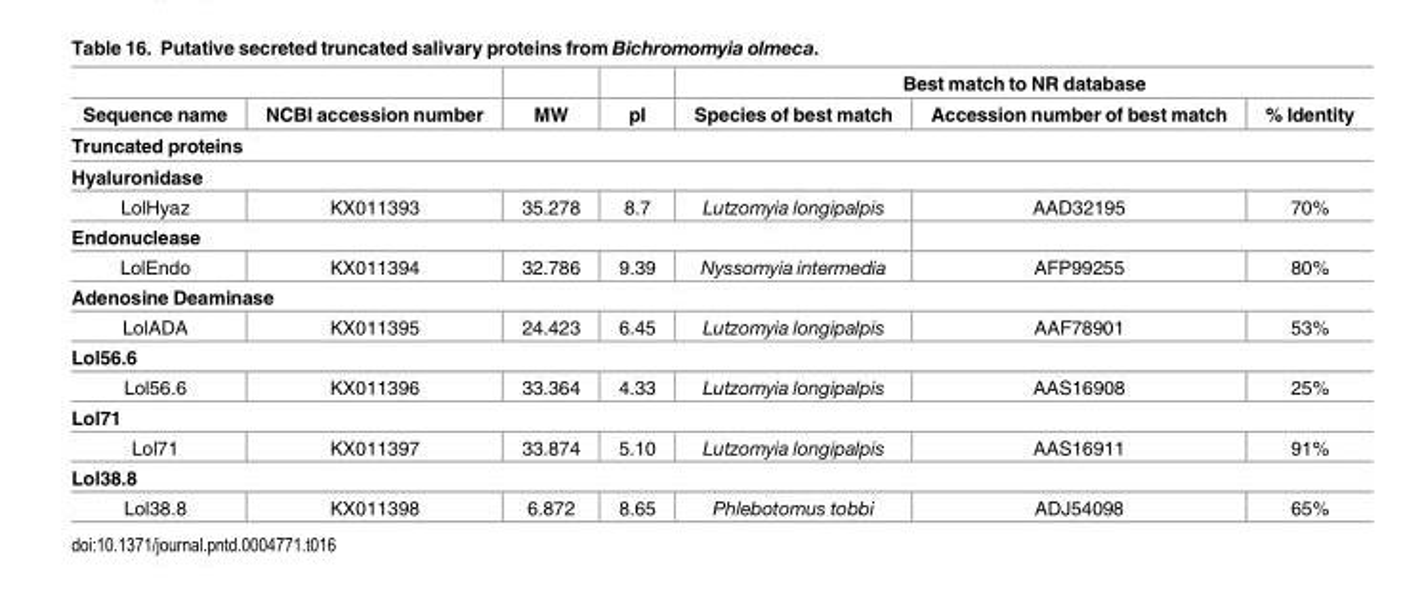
<table><thead><tr><td rowspan="2">Sequence name</td><td rowspan="2">NCBI accession number</td><td rowspan="2">MW</td><td rowspan="2">pI</td><td colspan="3">Best match to NR database</td></tr><tr><td>Species of best match</td><td>Accession number of best match</td><td>% Identity</td></tr><tr><td colspan="7">Truncated proteins</td></tr></thead><tbody><tr><td colspan="7">Hyaluronidase</td></tr><tr><td>LolHyaz</td><td>KX011393</td><td>35.278</td><td>8.7</td><td>Lutzomyia longipalpis</td><td>AAD32195</td><td>70%</td></tr><tr><td colspan="7">Endonuclease</td></tr><tr><td>LolEndo</td><td>KX011394</td><td>32.786</td><td>9.39</td><td>Nyssomyia intermedia</td><td>AFP99255</td><td>80%</td></tr><tr><td colspan="7">Adenosine Deaminase</td></tr><tr><td>LolADA</td><td>KX011395</td><td>24.423</td><td>6.45</td><td>Lutzomyia longipalpis</td><td>AAF78901</td><td>53%</td></tr><tr><td colspan="7">Lol56.6</td></tr><tr><td>Lol56.6</td><td>KX011396</td><td>33.364</td><td>4.33</td><td>Lutzomyia longipalpis</td><td>AAS16908</td><td>25%</td></tr><tr><td colspan="7">Lol71</td></tr><tr><td>Lol71</td><td>KX011397</td><td>33.874</td><td>5.10</td><td>Lutzomyia longipalpis</td><td>AAS16911</td><td>91%</td></tr><tr><td colspan="7">Lol38.8</td></tr><tr><td>Lol38.8</td><td>KX011398</td><td>6.872</td><td>8.65</td><td>Phlebotomus tobbi</td><td>ADJ54098</td><td>65%</td></tr></tbody></table>